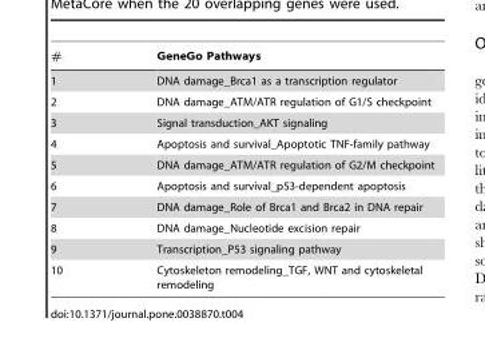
<table><thead><tr><td>#</td><td>GeneGo Pathways</td></tr></thead><tbody><tr><td>1</td><td>DNA damage_Brca1 as a transcription regulator</td></tr><tr><td>2</td><td>DNA damage_ATM/ATR regulation of G1/S checkpoint</td></tr><tr><td>3</td><td>Signal transduction_AKT signaling</td></tr><tr><td>4</td><td>Apoptosis and survival_Apoptotic TNF-family pathway</td></tr><tr><td>5</td><td>DNA damage_ATM/ATR regulation of G2/M checkpoint</td></tr><tr><td>6</td><td>Apoptosis and survival_p53-dependent apoptosis</td></tr><tr><td>7</td><td>DNA damage_Role of Brca1 and Brca2 in DNA repair</td></tr><tr><td>8</td><td>DNA damage_Nucleotide excision repair</td></tr><tr><td>9</td><td>Transcription_P53 signaling pathway</td></tr><tr><td>10</td><td>Cytoskeleton remodeling_TGF, WNT and cytoskeletal remodeling</td></tr></tbody></table>